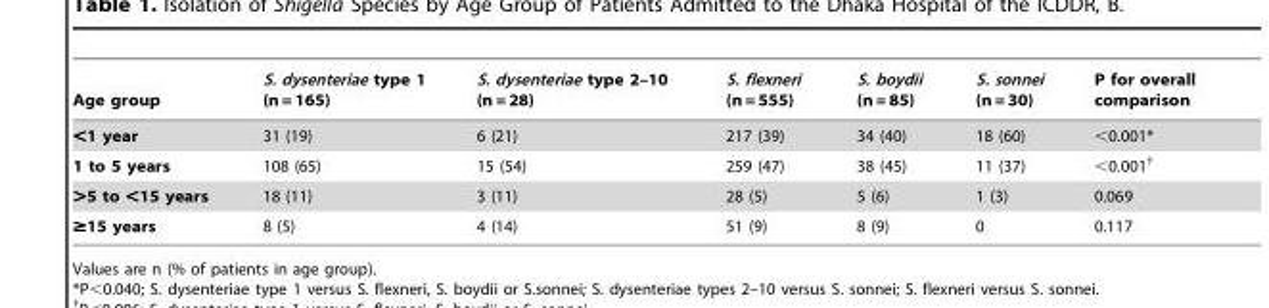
<table><thead><tr><td>Age group</td><td>S. dysenteriae type 1 (n = 165)</td><td>S. dysenteriae type 2–10 (n = 28)</td><td>S. flexneri (n = 555)</td><td>S. boydii (n = 85)</td><td>S. sonnei (n = 30)</td><td>P for overall comparison</td></tr></thead><tbody><tr><td>&lt;1 year</td><td>31 (19)</td><td>6 (21)</td><td>217 (39)</td><td>34 (40)</td><td>18 (60)</td><td>&lt;0.001*</td></tr><tr><td>1 to 5 years</td><td>108 (65)</td><td>15 (54)</td><td>259 (47)</td><td>38 (45)</td><td>11 (37)</td><td>&lt;0.001†</td></tr><tr><td>&gt;5 to &lt;15 years</td><td>18 (11)</td><td>3 (11)</td><td>28 (5)</td><td>5 (6)</td><td>1 (3)</td><td>0.069</td></tr><tr><td>≥15 years</td><td>8 (5)</td><td>4 (14)</td><td>51 (9)</td><td>8 (9)</td><td>0</td><td>0.117</td></tr></tbody></table>